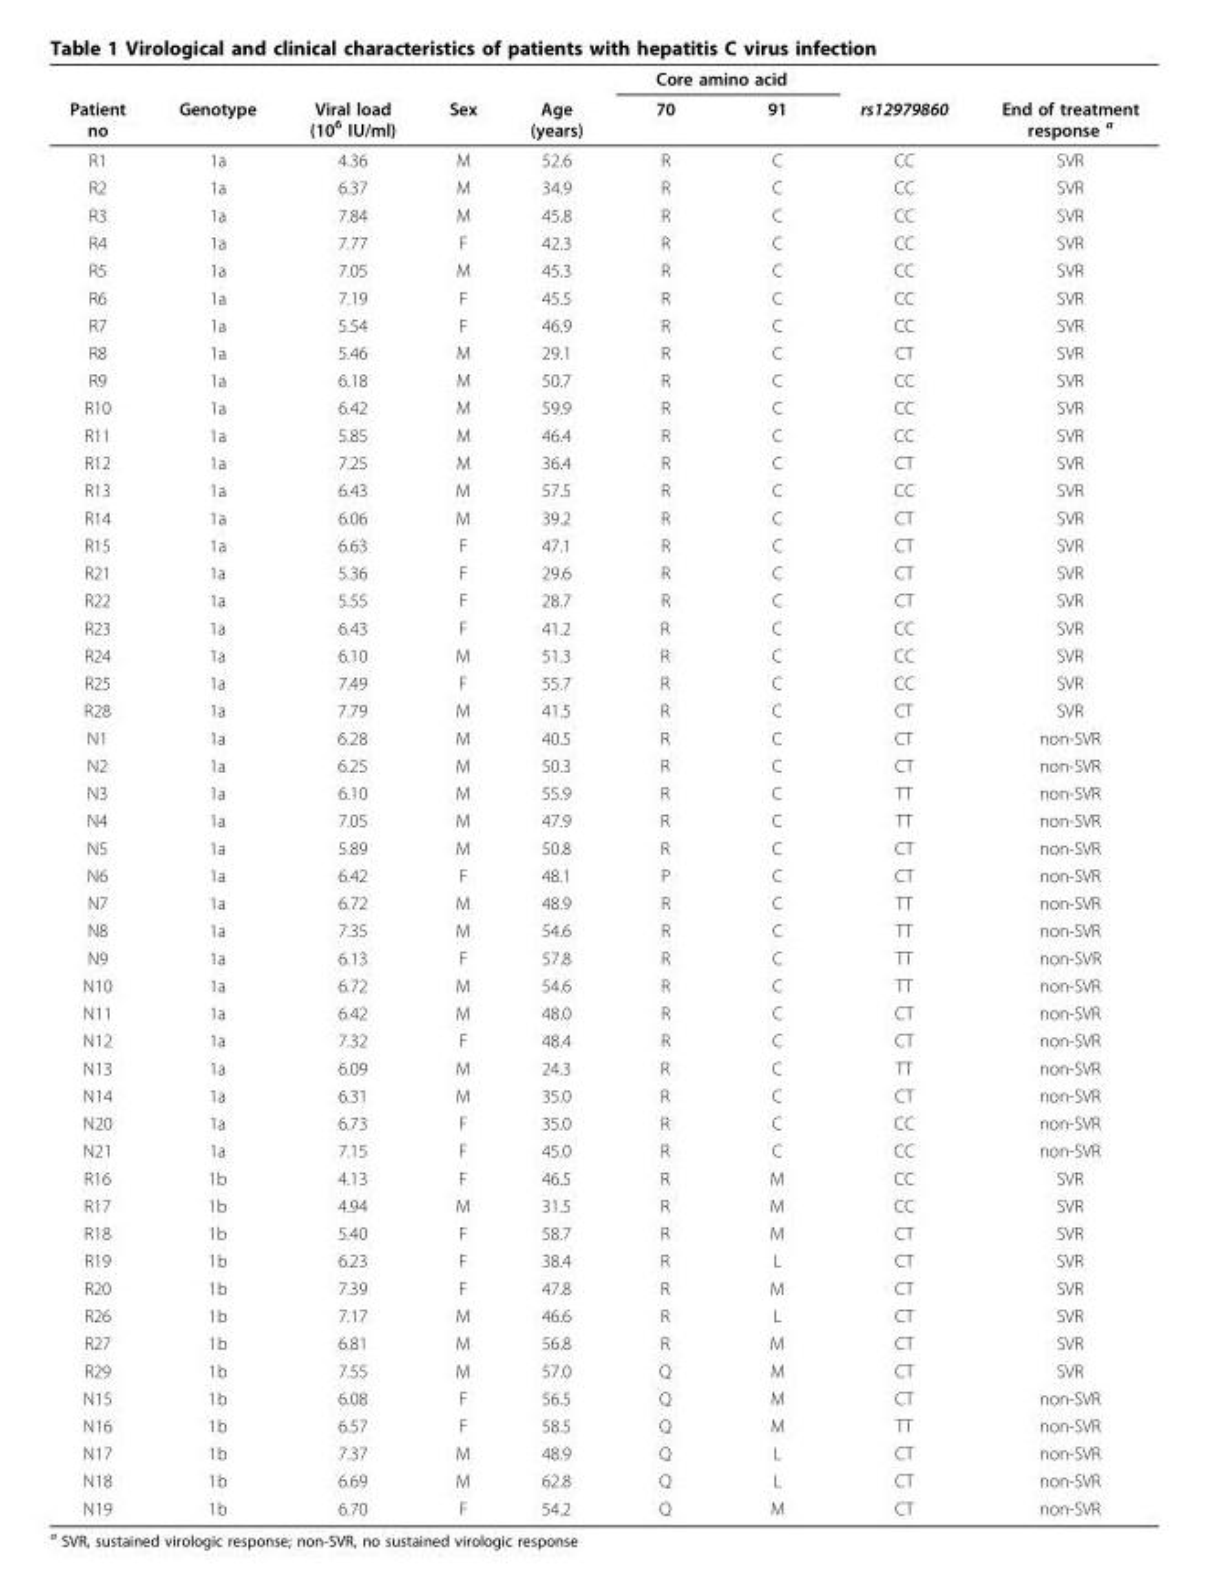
<table><thead><tr><td rowspan="2">Patient no</td><td rowspan="2">Genotype</td><td rowspan="2">Viral load (10<sup>6</sup> IU/ml)</td><td rowspan="2">Sex</td><td rowspan="2">Age (years)</td><td colspan="2">Core amino acid</td><td rowspan="2">rs12979860</td><td rowspan="2">End of treatment response <sup>a</sup></td></tr><tr><td>70</td><td>91</td></tr></thead><tbody><tr><td>R1</td><td>1a</td><td>4.36</td><td>M</td><td>52.6</td><td>R</td><td>C</td><td>CC</td><td>SVR</td></tr><tr><td>R2</td><td>1a</td><td>6.37</td><td>M</td><td>34.9</td><td>R</td><td>C</td><td>CC</td><td>SVR</td></tr><tr><td>R3</td><td>1a</td><td>7.84</td><td>M</td><td>45.8</td><td>R</td><td>C</td><td>CC</td><td>SVR</td></tr><tr><td>R4</td><td>1a</td><td>7.77</td><td>F</td><td>42.3</td><td>R</td><td>C</td><td>CC</td><td>SVR</td></tr><tr><td>R5</td><td>1a</td><td>7.05</td><td>M</td><td>45.3</td><td>R</td><td>C</td><td>CC</td><td>SVR</td></tr><tr><td>R6</td><td>1a</td><td>7.19</td><td>F</td><td>45.5</td><td>R</td><td>C</td><td>CC</td><td>SVR</td></tr><tr><td>R7</td><td>1a</td><td>5.54</td><td>F</td><td>46.9</td><td>R</td><td>C</td><td>CC</td><td>SVR</td></tr><tr><td>R8</td><td>1a</td><td>5.46</td><td>M</td><td>29.1</td><td>R</td><td>C</td><td>CT</td><td>SVR</td></tr><tr><td>R9</td><td>1a</td><td>6.18</td><td>M</td><td>50.7</td><td>R</td><td>C</td><td>CC</td><td>SVR</td></tr><tr><td>R10</td><td>1a</td><td>6.42</td><td>M</td><td>59.9</td><td>R</td><td>C</td><td>CC</td><td>SVR</td></tr><tr><td>R11</td><td>1a</td><td>5.85</td><td>M</td><td>46.4</td><td>R</td><td>C</td><td>CC</td><td>SVR</td></tr><tr><td>R12</td><td>1a</td><td>7.25</td><td>M</td><td>36.4</td><td>R</td><td>C</td><td>CT</td><td>SVR</td></tr><tr><td>R13</td><td>1a</td><td>6.43</td><td>M</td><td>57.5</td><td>R</td><td>C</td><td>CC</td><td>SVR</td></tr><tr><td>R14</td><td>1a</td><td>6.06</td><td>M</td><td>39.2</td><td>R</td><td>C</td><td>CT</td><td>SVR</td></tr><tr><td>R15</td><td>1a</td><td>6.63</td><td>F</td><td>47.1</td><td>R</td><td>C</td><td>CT</td><td>SVR</td></tr><tr><td>R21</td><td>1a</td><td>5.36</td><td>F</td><td>29.6</td><td>R</td><td>C</td><td>CT</td><td>SVR</td></tr><tr><td>R22</td><td>1a</td><td>5.55</td><td>F</td><td>28.7</td><td>R</td><td>C</td><td>CT</td><td>SVR</td></tr><tr><td>R23</td><td>1a</td><td>6.43</td><td>F</td><td>41.2</td><td>R</td><td>C</td><td>CC</td><td>SVR</td></tr><tr><td>R24</td><td>1a</td><td>6.10</td><td>M</td><td>51.3</td><td>R</td><td>C</td><td>CC</td><td>SVR</td></tr><tr><td>R25</td><td>1a</td><td>7.49</td><td>F</td><td>55.7</td><td>R</td><td>C</td><td>CC</td><td>SVR</td></tr><tr><td>R28</td><td>1a</td><td>7.79</td><td>M</td><td>41.5</td><td>R</td><td>C</td><td>CT</td><td>SVR</td></tr><tr><td>N1</td><td>1a</td><td>6.28</td><td>M</td><td>40.5</td><td>R</td><td>C</td><td>CT</td><td>non-SVR</td></tr><tr><td>N2</td><td>1a</td><td>6.25</td><td>M</td><td>50.3</td><td>R</td><td>C</td><td>CT</td><td>non-SVR</td></tr><tr><td>N3</td><td>1a</td><td>6.10</td><td>M</td><td>55.9</td><td>R</td><td>C</td><td>TT</td><td>non-SVR</td></tr><tr><td>N4</td><td>1a</td><td>7.05</td><td>M</td><td>47.9</td><td>R</td><td>C</td><td>TT</td><td>non-SVR</td></tr><tr><td>N5</td><td>1a</td><td>5.89</td><td>M</td><td>50.8</td><td>R</td><td>C</td><td>CT</td><td>non-SVR</td></tr><tr><td>N6</td><td>1a</td><td>6.42</td><td>F</td><td>48.1</td><td>P</td><td>C</td><td>CT</td><td>non-SVR</td></tr><tr><td>N7</td><td>1a</td><td>6.72</td><td>M</td><td>48.9</td><td>R</td><td>C</td><td>TT</td><td>non-SVR</td></tr><tr><td>N8</td><td>1a</td><td>7.35</td><td>M</td><td>54.6</td><td>R</td><td>C</td><td>TT</td><td>non-SVR</td></tr><tr><td>N9</td><td>1a</td><td>6.13</td><td>F</td><td>57.8</td><td>R</td><td>C</td><td>TT</td><td>non-SVR</td></tr><tr><td>N10</td><td>1a</td><td>6.72</td><td>M</td><td>54.6</td><td>R</td><td>C</td><td>TT</td><td>non-SVR</td></tr><tr><td>N11</td><td>1a</td><td>6.42</td><td>M</td><td>48.0</td><td>R</td><td>C</td><td>CT</td><td>non-SVR</td></tr><tr><td>N12</td><td>1a</td><td>7.32</td><td>F</td><td>48.4</td><td>R</td><td>C</td><td>CT</td><td>non-SVR</td></tr><tr><td>N13</td><td>1a</td><td>6.09</td><td>M</td><td>24.3</td><td>R</td><td>C</td><td>TT</td><td>non-SVR</td></tr><tr><td>N14</td><td>1a</td><td>6.31</td><td>M</td><td>35.0</td><td>R</td><td>C</td><td>CT</td><td>non-SVR</td></tr><tr><td>N20</td><td>1a</td><td>6.73</td><td>F</td><td>35.0</td><td>R</td><td>C</td><td>CC</td><td>non-SVR</td></tr><tr><td>N21</td><td>1a</td><td>7.15</td><td>F</td><td>45.0</td><td>R</td><td>C</td><td>CC</td><td>non-SVR</td></tr><tr><td>R16</td><td>1b</td><td>4.13</td><td>F</td><td>46.5</td><td>R</td><td>M</td><td>CC</td><td>SVR</td></tr><tr><td>R17</td><td>1b</td><td>4.94</td><td>M</td><td>31.5</td><td>R</td><td>M</td><td>CC</td><td>SVR</td></tr><tr><td>R18</td><td>1b</td><td>5.40</td><td>F</td><td>58.7</td><td>R</td><td>M</td><td>CT</td><td>SVR</td></tr><tr><td>R19</td><td>1b</td><td>6.23</td><td>F</td><td>38.4</td><td>R</td><td>L</td><td>CT</td><td>SVR</td></tr><tr><td>R20</td><td>1b</td><td>7.39</td><td>F</td><td>47.8</td><td>R</td><td>M</td><td>CT</td><td>SVR</td></tr><tr><td>R26</td><td>1b</td><td>7.17</td><td>M</td><td>46.6</td><td>R</td><td>L</td><td>CT</td><td>SVR</td></tr><tr><td>R27</td><td>1b</td><td>6.81</td><td>M</td><td>56.8</td><td>R</td><td>M</td><td>CT</td><td>SVR</td></tr><tr><td>R29</td><td>1b</td><td>7.55</td><td>M</td><td>57.0</td><td>Q</td><td>M</td><td>CT</td><td>SVR</td></tr><tr><td>N15</td><td>1b</td><td>6.08</td><td>F</td><td>56.5</td><td>Q</td><td>M</td><td>CT</td><td>non-SVR</td></tr><tr><td>N16</td><td>1b</td><td>6.57</td><td>F</td><td>58.5</td><td>Q</td><td>M</td><td>TT</td><td>non-SVR</td></tr><tr><td>N17</td><td>1b</td><td>7.37</td><td>M</td><td>48.9</td><td>Q</td><td>L</td><td>CT</td><td>non-SVR</td></tr><tr><td>N18</td><td>1b</td><td>6.69</td><td>M</td><td>62.8</td><td>Q</td><td>L</td><td>CT</td><td>non-SVR</td></tr><tr><td>N19</td><td>1b</td><td>6.70</td><td>F</td><td>54.2</td><td>Q</td><td>M</td><td>CT</td><td>non-SVR</td></tr></tbody></table>